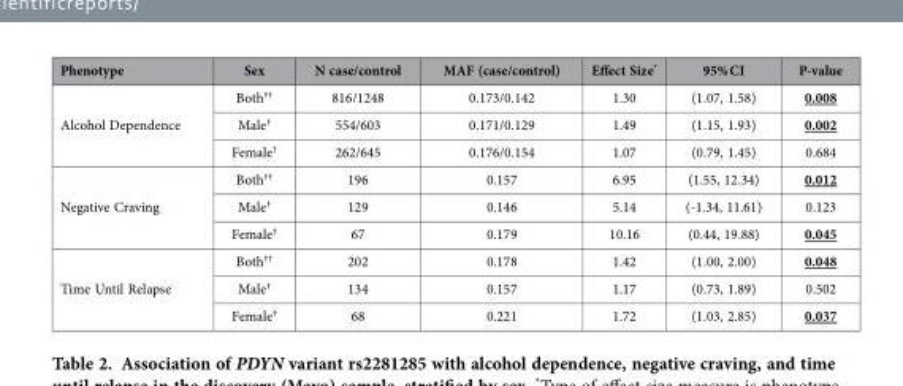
<table><thead><tr><td>Phenotype</td><td>Sex</td><td>N case/control</td><td>MAF (case/control)</td><td>Effect Size*</td><td>95% CI</td><td>P-value</td></tr></thead><tbody><tr><td rowspan="3">Alcohol Dependence</td><td>Both††</td><td>816/1248</td><td>0.173/0.142</td><td>1.30</td><td>(1.07, 1.58)</td><td>0.008</td></tr><tr><td>Male†</td><td>554/603</td><td>0.171/0.129</td><td>1.49</td><td>(1.15, 1.93)</td><td>0.002</td></tr><tr><td>Female†</td><td>262/645</td><td>0.176/0.154</td><td>1.07</td><td>(0.79, 1.45)</td><td>0.684</td></tr><tr><td rowspan="3">Negative Craving</td><td>Both††</td><td>196</td><td>0.157</td><td>6.95</td><td>(1.55, 12.34)</td><td>0.012</td></tr><tr><td>Male†</td><td>129</td><td>0.146</td><td>5.14</td><td>(-1.34, 11.61)</td><td>0.123</td></tr><tr><td>Female†</td><td>67</td><td>0.179</td><td>10.16</td><td>(0.44, 19.88)</td><td>0.045</td></tr><tr><td rowspan="3">Time Until Relapse</td><td>Both††</td><td>202</td><td>0.178</td><td>1.42</td><td>(1.00, 2.00)</td><td>0.048</td></tr><tr><td>Male†</td><td>134</td><td>0.157</td><td>1.17</td><td>(0.73, 1.89)</td><td>0.502</td></tr><tr><td>Female†</td><td>68</td><td>0.221</td><td>1.72</td><td>(1.03, 2.85)</td><td>0.037</td></tr></tbody></table>